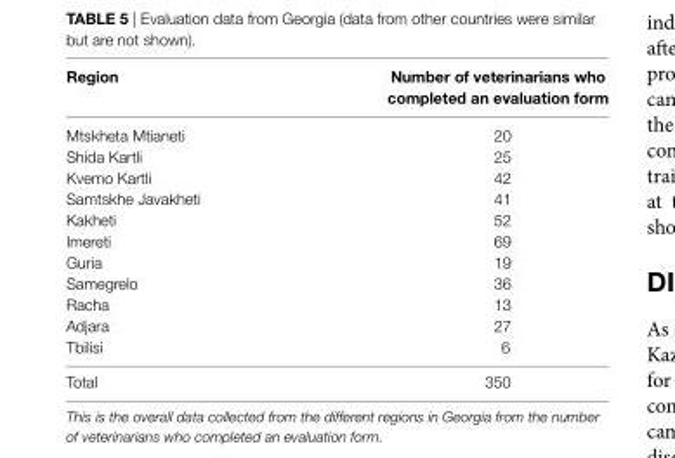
<table><thead><tr><td>region</td><td>number of veterinarians who completed an evaluation form</td></tr></thead><tbody><tr><td>Mtskheta Mtianeti</td><td>20</td></tr><tr><td>Shida Kartli</td><td>25</td></tr><tr><td>Kvemo Kartli</td><td>42</td></tr><tr><td>Samtskhe Javakheti</td><td>41</td></tr><tr><td>Kakheti</td><td>52</td></tr><tr><td>Imereti</td><td>69</td></tr><tr><td>Guria</td><td>19</td></tr><tr><td>Samegrelo</td><td>36</td></tr><tr><td>Racha</td><td>13</td></tr><tr><td>Adjara</td><td>27</td></tr><tr><td>Tbilisi</td><td>6</td></tr><tr><td>Total</td><td>350</td></tr></tbody></table>